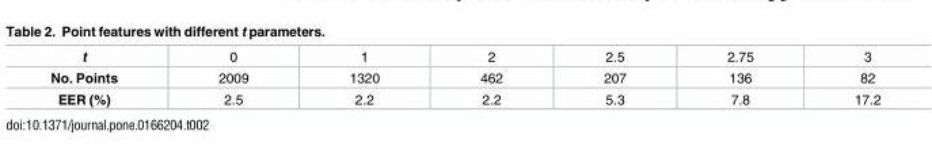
<table><tbody><tr><td>t</td><td>0</td><td>1</td><td>2</td><td>2.5</td><td>2.75</td><td>3</td></tr><tr><td>No. Points</td><td>2009</td><td>1320</td><td>462</td><td>207</td><td>136</td><td>82</td></tr><tr><td>EER (%)</td><td>2.5</td><td>2.2</td><td>2.2</td><td>5.3</td><td>7.8</td><td>17.2</td></tr></tbody></table>